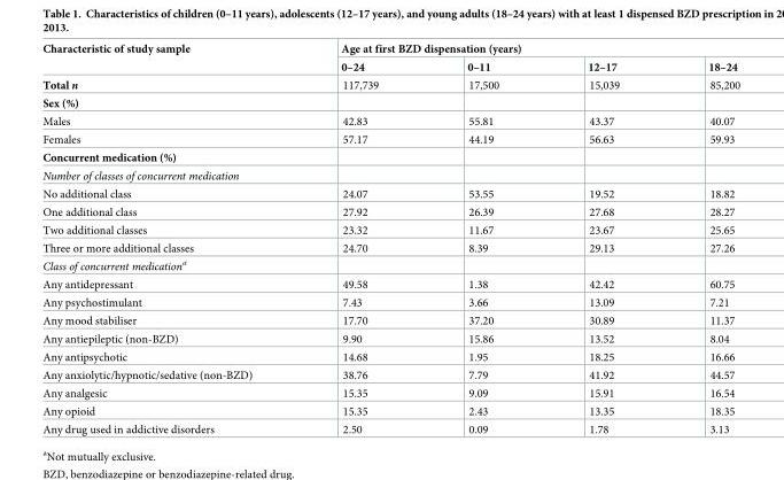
<table><thead><tr><td rowspan="2">Characteristic of study sample</td><td colspan="4">Age at first BZD dispensation (years)</td></tr><tr><td>0–24</td><td>0–11</td><td>12–17</td><td>18–24</td></tr></thead><tbody><tr><td>Total n</td><td>117,739</td><td>17,500</td><td>15,039</td><td>85,200</td></tr><tr><td colspan="5">Sex (%)</td></tr><tr><td>Males</td><td>42.83</td><td>55.81</td><td>43.37</td><td>40.07</td></tr><tr><td>Females</td><td>57.17</td><td>44.19</td><td>56.63</td><td>59.93</td></tr><tr><td colspan="5">Concurrent medication (%)</td></tr><tr><td colspan="5">Number of classes of concurrent medication</td></tr><tr><td>No additional class</td><td>24.07</td><td>53.55</td><td>19.52</td><td>18.82</td></tr><tr><td>One additional class</td><td>27.92</td><td>26.39</td><td>27.68</td><td>28.27</td></tr><tr><td>Two additional classes</td><td>23.32</td><td>11.67</td><td>23.67</td><td>25.65</td></tr><tr><td>Three or more additional classes</td><td>24.70</td><td>8.39</td><td>29.13</td><td>27.26</td></tr><tr><td colspan="5">Class of concurrent medication<sup>a</sup></td></tr><tr><td>Any antidepressant</td><td>49.58</td><td>1.38</td><td>42.42</td><td>60.75</td></tr><tr><td>Any psychostimulant</td><td>7.43</td><td>3.66</td><td>13.09</td><td>7.21</td></tr><tr><td>Any mood stabiliser</td><td>17.70</td><td>37.20</td><td>30.89</td><td>11.37</td></tr><tr><td>Any antiepileptic (non-BZD)</td><td>9.90</td><td>15.86</td><td>13.52</td><td>8.04</td></tr><tr><td>Any antipsychotic</td><td>14.68</td><td>1.95</td><td>18.25</td><td>16.66</td></tr><tr><td>Any anxiolytic/hypnotic/sedative (non-BZD)</td><td>38.76</td><td>7.79</td><td>41.92</td><td>44.57</td></tr><tr><td>Any analgesic</td><td>15.35</td><td>9.09</td><td>15.91</td><td>16.54</td></tr><tr><td>Any opioid</td><td>15.35</td><td>2.43</td><td>13.35</td><td>18.35</td></tr><tr><td>Any drug used in addictive disorders</td><td>2.50</td><td>0.09</td><td>1.78</td><td>3.13</td></tr></tbody></table>